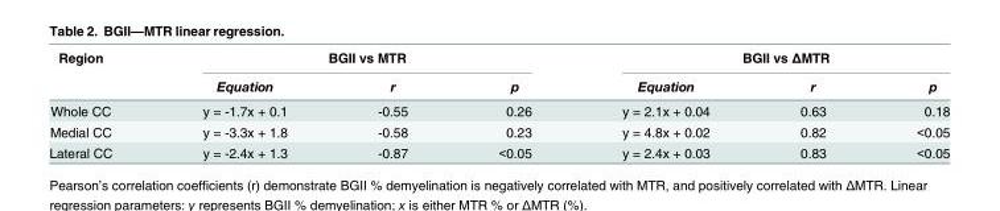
<table><thead><tr><td rowspan="2">Region</td><td colspan="3">BGII vs MTR</td><td colspan="3">BGII vs ΔMTR</td></tr><tr><td>Equation</td><td>r</td><td>p</td><td>Equation</td><td>r</td><td>p</td></tr></thead><tbody><tr><td>Whole CC</td><td>y = -1.7x + 0.1</td><td>-0.55</td><td>0.26</td><td>y = 2.1x + 0.04</td><td>0.63</td><td>0.18</td></tr><tr><td>Medial CC</td><td>y = -3.3x + 1.8</td><td>-0.58</td><td>0.23</td><td>y = 4.8x + 0.02</td><td>0.82</td><td>&lt;0.05</td></tr><tr><td>Lateral CC</td><td>y = -2.4x + 1.3</td><td>-0.87</td><td>&lt;0.05</td><td>y = 2.4x + 0.03</td><td>0.83</td><td>&lt;0.05</td></tr></tbody></table>